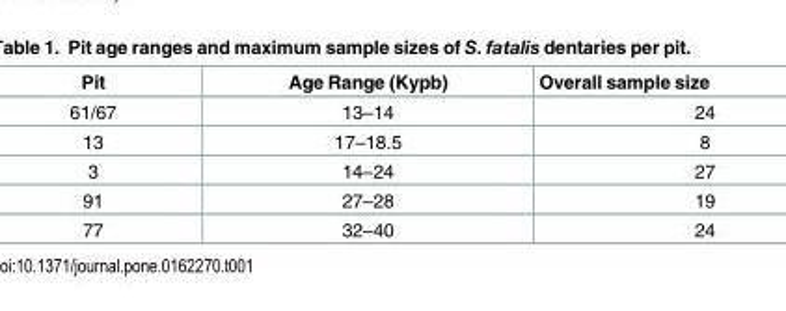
<table><thead><tr><td>Pit</td><td>Age Range (Kypb)</td><td>Overall sample size</td></tr></thead><tbody><tr><td>61/67</td><td>13–14</td><td>24</td></tr><tr><td>13</td><td>17–18.5</td><td>8</td></tr><tr><td>3</td><td>14–24</td><td>27</td></tr><tr><td>91</td><td>27–28</td><td>19</td></tr><tr><td>77</td><td>32–40</td><td>24</td></tr></tbody></table>